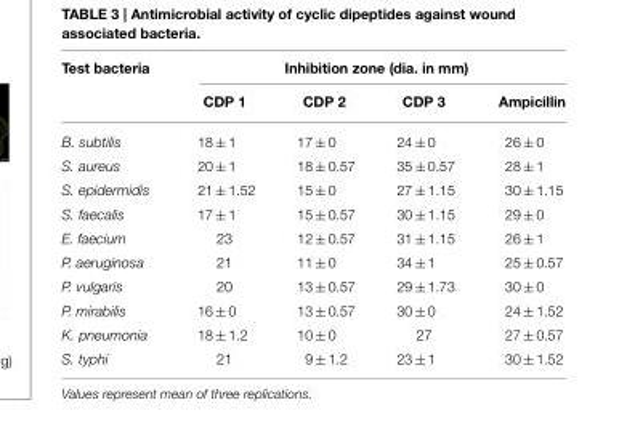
<table><thead><tr><td rowspan="2">Test bacteria</td><td colspan="4">Inhibition zone (dia. in mm)</td></tr><tr><td>CDP 1</td><td>CDP 2</td><td>CDP 3</td><td>Ampicillin</td></tr></thead><tbody><tr><td>B. subtilis</td><td>18 ± 1</td><td>17 ± 0</td><td>24 ± 0</td><td>26 ± 0</td></tr><tr><td>S. aureus</td><td>20 ± 1</td><td>18 ± 0.57</td><td>35 ± 0.57</td><td>28 ± 1</td></tr><tr><td>S. epidermidis</td><td>21 ± 1.52</td><td>15 ± 0</td><td>27 ± 1.15</td><td>30 ± 1.15</td></tr><tr><td>S. faecalis</td><td>17 ± 1</td><td>15 ± 0.57</td><td>30 ± 1.15</td><td>29 ± 0</td></tr><tr><td>E. faecium</td><td>23</td><td>12 ± 0.57</td><td>31 ± 1.15</td><td>26 ± 1</td></tr><tr><td>P. aeruginosa</td><td>21</td><td>11 ± 0</td><td>34 ± 1</td><td>25 ± 0.57</td></tr><tr><td>P. vulgaris</td><td>20</td><td>13 ± 0.57</td><td>29 ± 1.73</td><td>30 ± 0</td></tr><tr><td>P. mirabilis</td><td>16 ± 0</td><td>13 ± 0.57</td><td>30 ± 0</td><td>24 ± 1.52</td></tr><tr><td>K. pneumonia</td><td>18 ± 1.2</td><td>10 ± 0</td><td>27</td><td>27 ± 0.57</td></tr><tr><td>S. typhi</td><td>21</td><td>9 ± 1.2</td><td>23 ± 1</td><td>30 ± 1.52</td></tr></tbody></table>